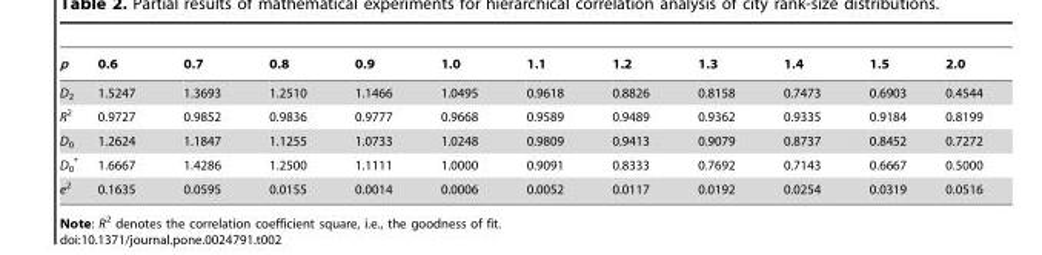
<table><thead><tr><td>p</td><td>0.6</td><td>0.7</td><td>0.8</td><td>0.9</td><td>1.0</td><td>1.1</td><td>1.2</td><td>1.3</td><td>1.4</td><td>1.5</td><td>2.0</td></tr></thead><tbody><tr><td>D<sub>2</sub></td><td>1.5247</td><td>1.3693</td><td>1.2510</td><td>1.1466</td><td>1.0495</td><td>0.9618</td><td>0.8826</td><td>0.8158</td><td>0.7473</td><td>0.6903</td><td>0.4544</td></tr><tr><td>R<sup>2</sup></td><td>0.9727</td><td>0.9852</td><td>0.9836</td><td>0.9777</td><td>0.9668</td><td>0.9589</td><td>0.9489</td><td>0.9362</td><td>0.9335</td><td>0.9184</td><td>0.8199</td></tr><tr><td>D<sub>0</sub></td><td>1.2624</td><td>1.1847</td><td>1.1255</td><td>1.0733</td><td>1.0248</td><td>0.9809</td><td>0.9413</td><td>0.9079</td><td>0.8737</td><td>0.8452</td><td>0.7272</td></tr><tr><td>D<sub>0</sub> *</td><td>1.6667</td><td>1.4286</td><td>1.2500</td><td>1.1111</td><td>1.0000</td><td>0.9091</td><td>0.8333</td><td>0.7692</td><td>0.7143</td><td>0.6667</td><td>0.5000</td></tr><tr><td>e<sup>2</sup></td><td>0.1635</td><td>0.0595</td><td>0.0155</td><td>0.0014</td><td>0.0006</td><td>0.0052</td><td>0.0117</td><td>0.0192</td><td>0.0254</td><td>0.0319</td><td>0.0516</td></tr></tbody></table>